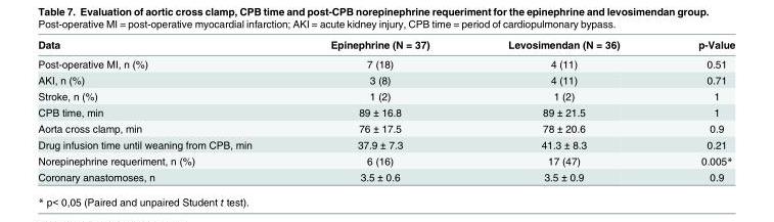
<table><thead><tr><td>Data</td><td>Epinephrine (N = 37)</td><td>Levosimendan (N = 36)</td><td>p-Value</td></tr></thead><tbody><tr><td>Post-operative MI, n (%)</td><td>7 (18)</td><td>4 (11)</td><td>0.51</td></tr><tr><td>AKI, n (%)</td><td>3 (8)</td><td>4 (11)</td><td>0.71</td></tr><tr><td>Stroke, n (%)</td><td>1 (2)</td><td>1 (2)</td><td>1</td></tr><tr><td>CPB time, min</td><td>89 ± 16.8</td><td>89 ± 21.5</td><td>1</td></tr><tr><td>Aorta cross clamp, min</td><td>76 ± 17.5</td><td>78 ± 20.6</td><td>0.9</td></tr><tr><td>Drug infusion time until weaning from CPB, min</td><td>37.9 ± 7.3</td><td>41.3 ± 8.3</td><td>0.21</td></tr><tr><td>Norepinephrine requeriment, n (%)</td><td>6 (16)</td><td>17 (47)</td><td>0.005*</td></tr><tr><td>Coronary anastomoses, n</td><td>3.5 ± 0.6</td><td>3.5 ± 0.9</td><td>0.9</td></tr></tbody></table>